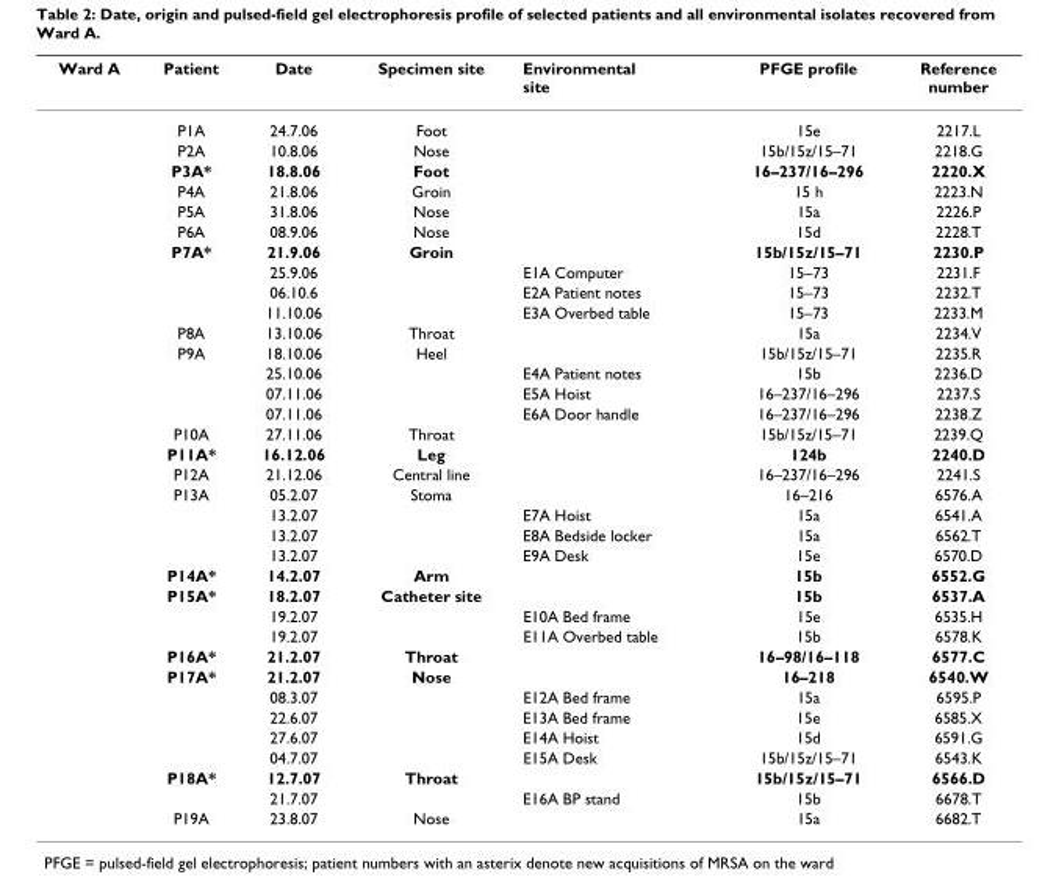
<table><thead><tr><td>Ward A</td><td>Patient</td><td>Date</td><td>Specimen site</td><td>Environmental site</td><td>PFGE profile</td><td>Reference number</td></tr></thead><tbody><tr><td></td><td>P1A</td><td>24.7.06</td><td>Foot</td><td></td><td>15e</td><td>2217.L</td></tr><tr><td></td><td>P2A</td><td>10.8.06</td><td>Nose</td><td></td><td>15b/15z/15–71</td><td>2218.G</td></tr><tr><td></td><td>P3A*</td><td>18.8.06</td><td>Foot</td><td></td><td>16–237/16–296</td><td>2220.X</td></tr><tr><td></td><td>P4A</td><td>21.8.06</td><td>Groin</td><td></td><td>15 h</td><td>2223.N</td></tr><tr><td></td><td>P5A</td><td>31.8.06</td><td>Nose</td><td></td><td>15a</td><td>2226.P</td></tr><tr><td></td><td>P6A</td><td>08.9.06</td><td>Nose</td><td></td><td>15d</td><td>2228.T</td></tr><tr><td></td><td>P7A*</td><td>21.9.06</td><td>Groin</td><td></td><td>15b/15z/15–71</td><td>2230.P</td></tr><tr><td></td><td></td><td>25.9.06</td><td></td><td>E1A Computer</td><td>15–73</td><td>2231.F</td></tr><tr><td></td><td></td><td>06.10.6</td><td></td><td>E2A Patient notes</td><td>15–73</td><td>2232.T</td></tr><tr><td></td><td></td><td>11.10.06</td><td></td><td>E3A Overbed table</td><td>15–73</td><td>2233.M</td></tr><tr><td></td><td>P8A</td><td>13.10.06</td><td>Throat</td><td></td><td>15a</td><td>2234.V</td></tr><tr><td></td><td>P9A</td><td>18.10.06</td><td>Heel</td><td></td><td>15b/15z/15–71</td><td>2235.R</td></tr><tr><td></td><td></td><td>25.10.06</td><td></td><td>E4A Patient notes</td><td>15b</td><td>2236.D</td></tr><tr><td></td><td></td><td>07.11.06</td><td></td><td>E5A Hoist</td><td>16–237/16–296</td><td>2237.S</td></tr><tr><td></td><td></td><td>07.11.06</td><td></td><td>E6A Door handle</td><td>16–237/16–296</td><td>2238.Z</td></tr><tr><td></td><td>P10A</td><td>27.11.06</td><td>Throat</td><td></td><td>15b/15z/15–71</td><td>2239.Q</td></tr><tr><td></td><td>P11A*</td><td>16.12.06</td><td>Leg</td><td></td><td>124b</td><td>2240.D</td></tr><tr><td></td><td>P12A</td><td>21.12.06</td><td>Central line</td><td></td><td>16–237/16–296</td><td>2241.S</td></tr><tr><td></td><td>P13A</td><td>05.2.07</td><td>Stoma</td><td></td><td>16–216</td><td>6576.A</td></tr><tr><td></td><td></td><td>13.2.07</td><td></td><td>E7A Hoist</td><td>15a</td><td>6541.A</td></tr><tr><td></td><td></td><td>13.2.07</td><td></td><td>E8A Bedside locker</td><td>15a</td><td>6562.T</td></tr><tr><td></td><td></td><td>13.2.07</td><td></td><td>E9A Desk</td><td>15e</td><td>6570.D</td></tr><tr><td></td><td>P14A*</td><td>14.2.07</td><td>Arm</td><td></td><td>15b</td><td>6552.G</td></tr><tr><td></td><td>P15A*</td><td>18.2.07</td><td>Catheter site</td><td></td><td>15b</td><td>6537.A</td></tr><tr><td></td><td></td><td>19.2.07</td><td></td><td>E10A Bed frame</td><td>15e</td><td>6535.H</td></tr><tr><td></td><td></td><td>19.2.07</td><td></td><td>E11A Overbed table</td><td>15b</td><td>6578.K</td></tr><tr><td></td><td>P16A*</td><td>21.2.07</td><td>Throat</td><td></td><td>16–98/16–118</td><td>6577.C</td></tr><tr><td></td><td>P17A*</td><td>21.2.07</td><td>Nose</td><td></td><td>16–218</td><td>6540.W</td></tr><tr><td></td><td></td><td>08.3.07</td><td></td><td>E12A Bed frame</td><td>15a</td><td>6595.P</td></tr><tr><td></td><td></td><td>22.6.07</td><td></td><td>E13A Bed frame</td><td>15e</td><td>6585.X</td></tr><tr><td></td><td></td><td>27.6.07</td><td></td><td>E14A Hoist</td><td>15d</td><td>6591.G</td></tr><tr><td></td><td></td><td>04.7.07</td><td></td><td>E15A Desk</td><td>15b/15z/15–71</td><td>6543.K</td></tr><tr><td></td><td>P18A*</td><td>12.7.07</td><td>Throat</td><td></td><td>15b/15z/15–71</td><td>6566.D</td></tr><tr><td></td><td></td><td>21.7.07</td><td></td><td>E16A BP stand</td><td>15b</td><td>6678.T</td></tr><tr><td></td><td>P19A</td><td>23.8.07</td><td>Nose</td><td></td><td>15a</td><td>6682.T</td></tr></tbody></table>